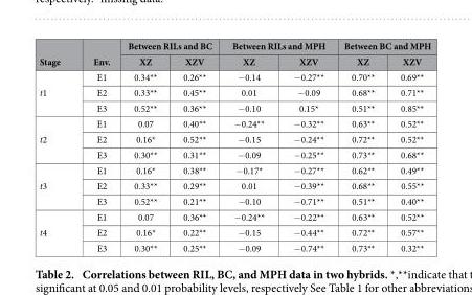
<table><thead><tr><td rowspan="2">Stage</td><td rowspan="2">Env.</td><td colspan="2">Between RILs and BC</td><td colspan="2">Between RILs and MPH</td><td colspan="2">Between BC and MPH</td></tr><tr><td>XZ</td><td>XZV</td><td>XZ</td><td>XZV</td><td>XZ</td><td>XZV</td></tr></thead><tbody><tr><td rowspan="3">t1</td><td>E1</td><td>0.34**</td><td>0.26**</td><td>− 0.14</td><td>− 0.27**</td><td>0.70**</td><td>0.69**</td></tr><tr><td>E2</td><td>0.33**</td><td>0.45**</td><td>0.01</td><td>− 0.09</td><td>0.68**</td><td>0.71**</td></tr><tr><td>E3</td><td>0.52**</td><td>0.36**</td><td>− 0.10</td><td>0.15*</td><td>0.51**</td><td>0.85**</td></tr><tr><td rowspan="3">t2</td><td>E1</td><td>0.07</td><td>0.40**</td><td>− 0.24**</td><td>− 0.32**</td><td>0.63**</td><td>0.52**</td></tr><tr><td>E2</td><td>0.16*</td><td>0.52**</td><td>− 0.15</td><td>− 0.24**</td><td>0.72**</td><td>0.52**</td></tr><tr><td>E3</td><td>0.30**</td><td>0.31**</td><td>− 0.09</td><td>− 0.25**</td><td>0.73**</td><td>0.68**</td></tr><tr><td rowspan="3">t3</td><td>E1</td><td>0.16*</td><td>0.38**</td><td>− 0.17*</td><td>− 0.27**</td><td>0.62**</td><td>0.49**</td></tr><tr><td>E2</td><td>0.33**</td><td>0.29**</td><td>0.01</td><td>− 0.39**</td><td>0.68**</td><td>0.55**</td></tr><tr><td>E3</td><td>0.52**</td><td>0.21**</td><td>− 0.10</td><td>− 0.71**</td><td>0.51**</td><td>0.40**</td></tr><tr><td rowspan="3">t4</td><td>E1</td><td>0.07</td><td>0.36**</td><td>− 0.24**</td><td>− 0.22**</td><td>0.63**</td><td>0.52**</td></tr><tr><td>E2</td><td>0.16*</td><td>0.22**</td><td>− 0.15</td><td>− 0.44**</td><td>0.72**</td><td>0.57**</td></tr><tr><td>E3</td><td>0.30**</td><td>0.25**</td><td>− 0.09</td><td>− 0.74**</td><td>0.73**</td><td>0.32**</td></tr></tbody></table>